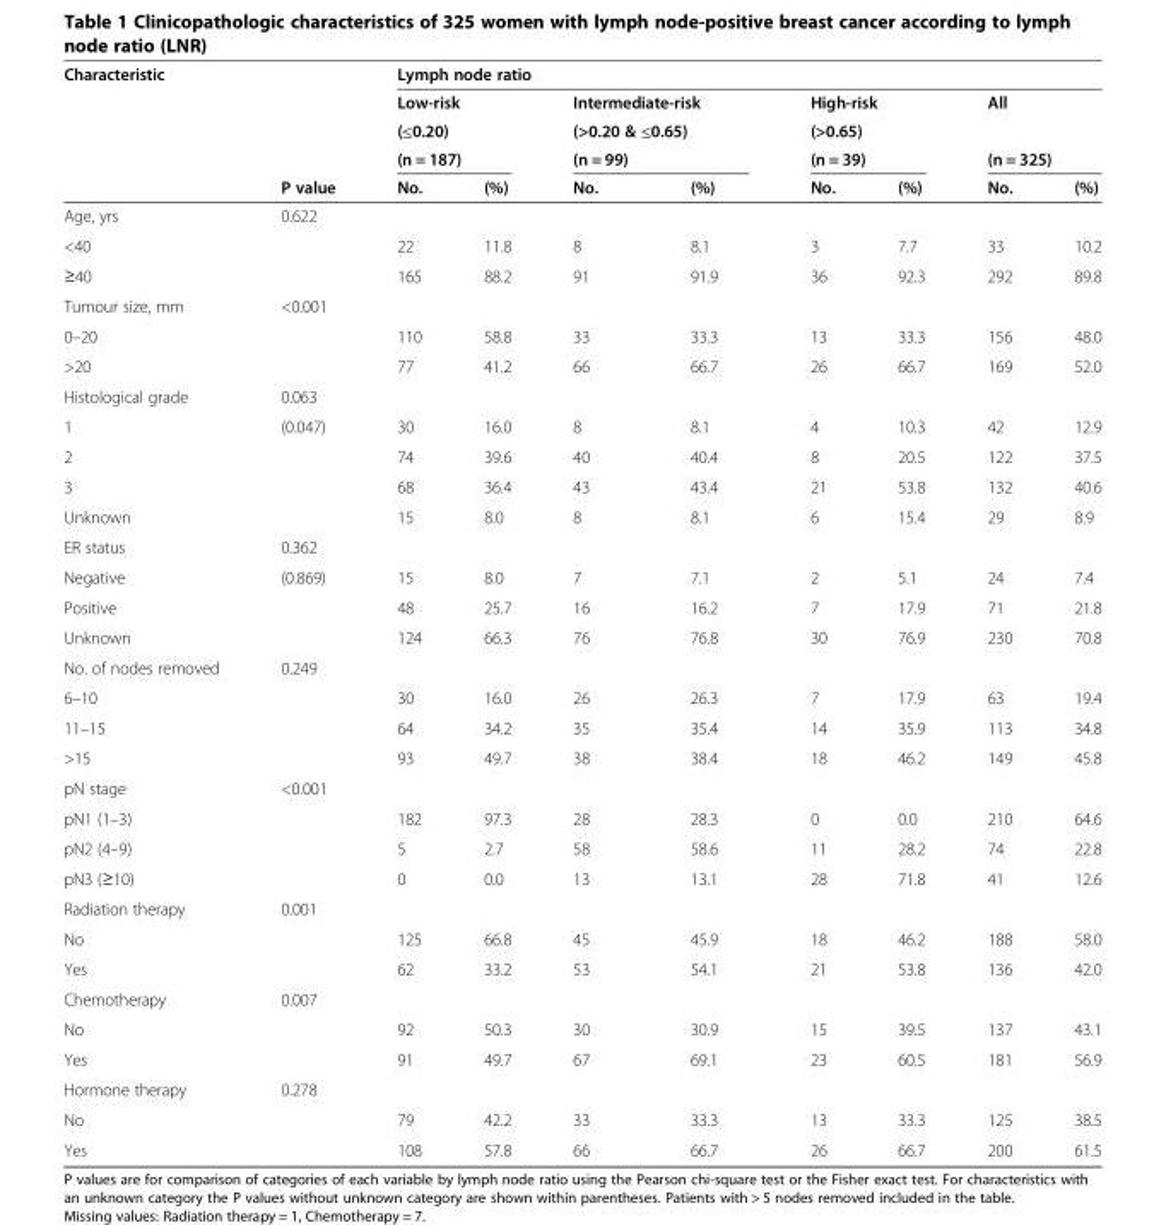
<table><thead><tr><td rowspan="5">Characteristic</td><td rowspan="5">P value</td><td colspan="8">Lymph node ratio</td></tr><tr><td rowspan="3" colspan="2">Low-risk (≤0.20) (n = 187)</td><td rowspan="3" colspan="2">Intermediate-risk (&gt;0.20 &amp; ≤0.65) (n = 99)</td><td rowspan="3" colspan="2">High-risk (&gt;0.65) (n = 39)</td><td rowspan="3" colspan="2">All (n = 325)</td></tr><tr></tr><tr></tr><tr><td>No.</td><td>(%)</td><td>No.</td><td>(%)</td><td>No.</td><td>(%)</td><td>No.</td><td>(%)</td></tr></thead><tbody><tr><td>Age, yrs</td><td>0.622</td><td></td><td></td><td></td><td></td><td></td><td></td><td></td><td></td></tr><tr><td>&lt;40</td><td></td><td>22</td><td>11.8</td><td>8</td><td>8.1</td><td>3</td><td>7.7</td><td>33</td><td>10.2</td></tr><tr><td>≥40</td><td></td><td>165</td><td>88.2</td><td>91</td><td>91.9</td><td>36</td><td>92.3</td><td>292</td><td>89.8</td></tr><tr><td>Tumour size, mm</td><td>&lt;0.001</td><td></td><td></td><td></td><td></td><td></td><td></td><td></td><td></td></tr><tr><td>0–20</td><td></td><td>110</td><td>58.8</td><td>33</td><td>33.3</td><td>13</td><td>33.3</td><td>156</td><td>48.0</td></tr><tr><td>&gt;20</td><td></td><td>77</td><td>41.2</td><td>66</td><td>66.7</td><td>26</td><td>66.7</td><td>169</td><td>52.0</td></tr><tr><td>Histological grade</td><td>0.063</td><td></td><td></td><td></td><td></td><td></td><td></td><td></td><td></td></tr><tr><td>1</td><td>(0.047)</td><td>30</td><td>16.0</td><td>8</td><td>8.1</td><td>4</td><td>10.3</td><td>42</td><td>12.9</td></tr><tr><td>2</td><td></td><td>74</td><td>39.6</td><td>40</td><td>40.4</td><td>8</td><td>20.5</td><td>122</td><td>37.5</td></tr><tr><td>3</td><td></td><td>68</td><td>36.4</td><td>43</td><td>43.4</td><td>21</td><td>53.8</td><td>132</td><td>40.6</td></tr><tr><td>Unknown</td><td></td><td>15</td><td>8.0</td><td>8</td><td>8.1</td><td>6</td><td>15.4</td><td>29</td><td>8.9</td></tr><tr><td>ER status</td><td>0.362</td><td></td><td></td><td></td><td></td><td></td><td></td><td></td><td></td></tr><tr><td>Negative</td><td>(0.869)</td><td>15</td><td>8.0</td><td>7</td><td>7.1</td><td>2</td><td>5.1</td><td>24</td><td>7.4</td></tr><tr><td>Positive</td><td></td><td>48</td><td>25.7</td><td>16</td><td>16.2</td><td>7</td><td>17.9</td><td>71</td><td>21.8</td></tr><tr><td>Unknown</td><td></td><td>124</td><td>66.3</td><td>76</td><td>76.8</td><td>30</td><td>76.9</td><td>230</td><td>70.8</td></tr><tr><td>No. of nodes removed</td><td>0.249</td><td></td><td></td><td></td><td></td><td></td><td></td><td></td><td></td></tr><tr><td>6–10</td><td></td><td>30</td><td>16.0</td><td>26</td><td>26.3</td><td>7</td><td>17.9</td><td>63</td><td>19.4</td></tr><tr><td>11–15</td><td></td><td>64</td><td>34.2</td><td>35</td><td>35.4</td><td>14</td><td>35.9</td><td>113</td><td>34.8</td></tr><tr><td>&gt;15</td><td></td><td>93</td><td>49.7</td><td>38</td><td>38.4</td><td>18</td><td>46.2</td><td>149</td><td>45.8</td></tr><tr><td>pN stage</td><td>&lt;0.001</td><td></td><td></td><td></td><td></td><td></td><td></td><td></td><td></td></tr><tr><td>pN1 (1–3)</td><td></td><td>182</td><td>97.3</td><td>28</td><td>28.3</td><td>0</td><td>0.0</td><td>210</td><td>64.6</td></tr><tr><td>pN2 (4–9)</td><td></td><td>5</td><td>2.7</td><td>58</td><td>58.6</td><td>11</td><td>28.2</td><td>74</td><td>22.8</td></tr><tr><td>pN3 (≥10)</td><td></td><td>0</td><td>0.0</td><td>13</td><td>13.1</td><td>28</td><td>71.8</td><td>41</td><td>12.6</td></tr><tr><td>Radiation therapy</td><td>0.001</td><td></td><td></td><td></td><td></td><td></td><td></td><td></td><td></td></tr><tr><td>No</td><td></td><td>125</td><td>66.8</td><td>45</td><td>45.9</td><td>18</td><td>46.2</td><td>188</td><td>58.0</td></tr><tr><td>Yes</td><td></td><td>62</td><td>33.2</td><td>53</td><td>54.1</td><td>21</td><td>53.8</td><td>136</td><td>42.0</td></tr><tr><td>Chemotherapy</td><td>0.007</td><td></td><td></td><td></td><td></td><td></td><td></td><td></td><td></td></tr><tr><td>No</td><td></td><td>92</td><td>50.3</td><td>30</td><td>30.9</td><td>15</td><td>39.5</td><td>137</td><td>43.1</td></tr><tr><td>Yes</td><td></td><td>91</td><td>49.7</td><td>67</td><td>69.1</td><td>23</td><td>60.5</td><td>181</td><td>56.9</td></tr><tr><td>Hormone therapy</td><td>0.278</td><td></td><td></td><td></td><td></td><td></td><td></td><td></td><td></td></tr><tr><td>No</td><td></td><td>79</td><td>42.2</td><td>33</td><td>33.3</td><td>13</td><td>33.3</td><td>125</td><td>38.5</td></tr><tr><td>Yes</td><td></td><td>108</td><td>57.8</td><td>66</td><td>66.7</td><td>26</td><td>66.7</td><td>200</td><td>61.5</td></tr></tbody></table>